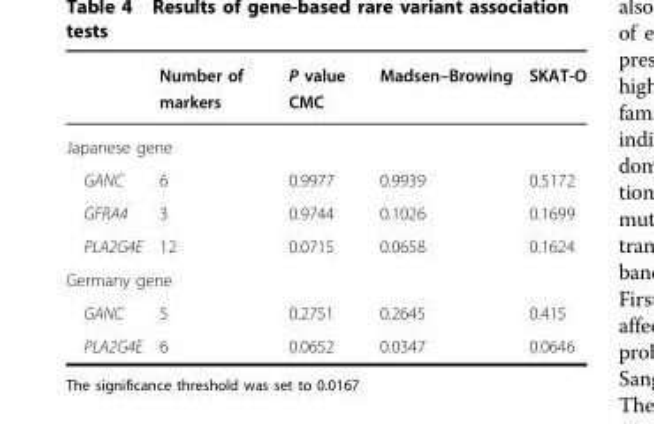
<table><thead><tr><td></td><td>Number of markers</td><td>P value CMC</td><td>Madsen–Browing</td><td>SKAT-O</td></tr></thead><tbody><tr><td colspan="5">Japanese gene</td></tr><tr><td>GANC</td><td>6</td><td>0.9977</td><td>0.9939</td><td>0.5172</td></tr><tr><td>GFRA4</td><td>3</td><td>0.9744</td><td>0.1026</td><td>0.1699</td></tr><tr><td>PLA2G4E</td><td>12</td><td>0.0715</td><td>0.0658</td><td>0.1624</td></tr><tr><td colspan="5">Germany gene</td></tr><tr><td>GANC</td><td>5</td><td>0.2751</td><td>0.2645</td><td>0.415</td></tr><tr><td>PLA2G4E</td><td>6</td><td>0.0652</td><td>0.0347</td><td>0.0646</td></tr></tbody></table>